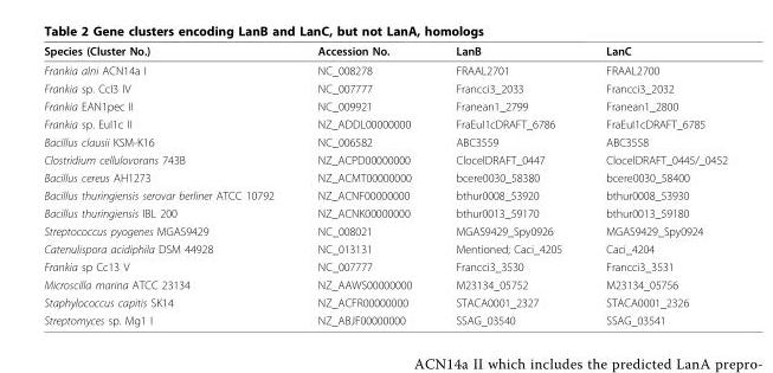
<table><thead><tr><td>Species (Cluster No.)</td><td>Accession No.</td><td>LanB</td><td>LanC</td></tr></thead><tbody><tr><td>Frankia alni ACN14a I</td><td>NC_008278</td><td>FRAAL2701</td><td>FRAAL2700</td></tr><tr><td>Frankia sp. CcI3 IV</td><td>NC_007777</td><td>Francci3_2033</td><td>Francci3_2032</td></tr><tr><td>Frankia EAN1pec II</td><td>NC_009921</td><td>Franean1_2799</td><td>Franean1_2800</td></tr><tr><td>Frankia sp. EuI1c II</td><td>NZ_ADDL00000000</td><td>FraEuI1cDRAFT_6786</td><td>FraEuI1cDRAFT_6785</td></tr><tr><td>Bacillus clausii KSM-K16</td><td>NC_006582</td><td>ABC3559</td><td>ABC3558</td></tr><tr><td>Clostridium cellulovorans 743B</td><td>NZ_ACPD00000000</td><td>ClocelDRAFT_0447</td><td>ClocelDRAFT_0445/_0452</td></tr><tr><td>Bacillus cereus AH1273</td><td>NZ_ACMT00000000</td><td>bcere0030_58380</td><td>bcere0030_58400</td></tr><tr><td>Bacillus thuringiensis serovar berliner ATCC 10792</td><td>NZ_ACNF00000000</td><td>bthur0008_53920</td><td>bthur0008_53930</td></tr><tr><td>Bacillus thuringiensis IBL 200</td><td>NZ_ACNK00000000</td><td>bthur0013_59170</td><td>bthur0013_59180</td></tr><tr><td>Streptococcus pyogenes MGAS9429</td><td>NC_008021</td><td>MGAS9429_Spy0926</td><td>MGAS9429_Spy0924</td></tr><tr><td>Catenulispora acidiphila DSM 44928</td><td>NC_013131</td><td>Mentioned; Caci_4205</td><td>Caci_4204</td></tr><tr><td>Frankia sp Cc13 V</td><td>NC_007777</td><td>Francci3_3530</td><td>Francci3_3531</td></tr><tr><td>Microscilla marina ATCC 23134</td><td>NZ_AAWS00000000</td><td>M23134_05752</td><td>M23134_05756</td></tr><tr><td>Staphylococcus capitis SK14</td><td>NZ_ACFR00000000</td><td>STACA0001_2327</td><td>STACA0001_2326</td></tr><tr><td>Streptomyces sp. Mg1 I</td><td>NZ_ABJF00000000</td><td>SSAG_03540</td><td>SSAG_03541</td></tr></tbody></table>